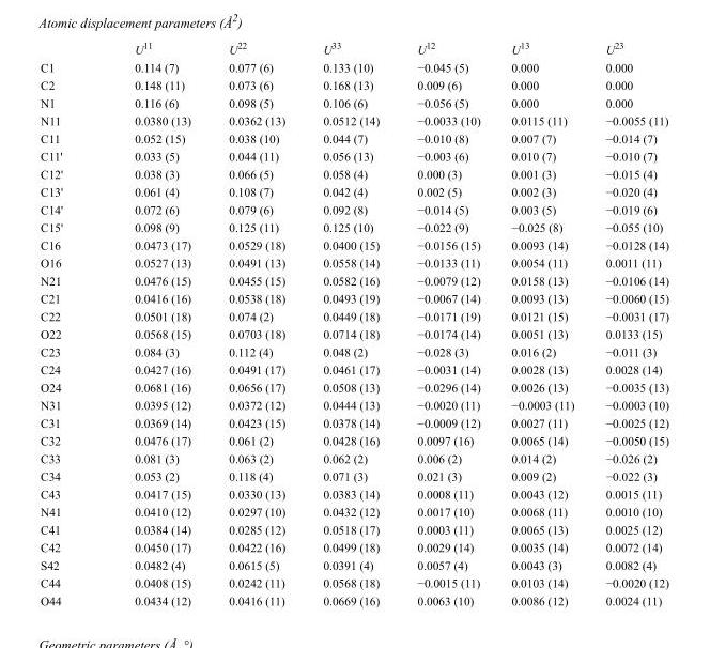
<table><thead><tr><td></td><td>U<sup>11</sup></td><td>U<sup>22</sup></td><td>U<sup>33</sup></td><td>U<sup>12</sup></td><td>U<sup>13</sup></td><td>U<sup>23</sup></td></tr></thead><tbody><tr><td>C1</td><td>0.114 (7)</td><td>0.077 (6)</td><td>0.133 (10)</td><td>−0.045 (5)</td><td>0.000</td><td>0.000</td></tr><tr><td>C2</td><td>0.148 (11)</td><td>0.073 (6)</td><td>0.168 (13)</td><td>0.009 (6)</td><td>0.000</td><td>0.000</td></tr><tr><td>N1</td><td>0.116 (6)</td><td>0.098 (5)</td><td>0.106 (6)</td><td>−0.056 (5)</td><td>0.000</td><td>0.000</td></tr><tr><td>N11</td><td>0.0380 (13)</td><td>0.0362 (13)</td><td>0.0512 (14)</td><td>−0.0033 (10)</td><td>0.0115 (11)</td><td>−0.0055 (11)</td></tr><tr><td>C11</td><td>0.052 (15)</td><td>0.038 (10)</td><td>0.044 (7)</td><td>−0.010 (8)</td><td>0.007 (7)</td><td>−0.014 (7)</td></tr><tr><td>C11&#x27;</td><td>0.033 (5)</td><td>0.044 (11)</td><td>0.056 (13)</td><td>−0.003 (6)</td><td>0.010 (7)</td><td>−0.010 (7)</td></tr><tr><td>C12&#x27;</td><td>0.038 (3)</td><td>0.066 (5)</td><td>0.058 (4)</td><td>0.000 (3)</td><td>0.001 (3)</td><td>−0.015 (4)</td></tr><tr><td>C13&#x27;</td><td>0.061 (4)</td><td>0.108 (7)</td><td>0.042 (4)</td><td>0.002 (5)</td><td>0.002 (3)</td><td>−0.020 (4)</td></tr><tr><td>C14&#x27;</td><td>0.072 (6)</td><td>0.079 (6)</td><td>0.092 (8)</td><td>−0.014 (5)</td><td>0.003 (5)</td><td>−0.019 (6)</td></tr><tr><td>C15&#x27;</td><td>0.098 (9)</td><td>0.125 (11)</td><td>0.125 (10)</td><td>−0.022 (9)</td><td>−0.025 (8)</td><td>−0.055 (10)</td></tr><tr><td>C16</td><td>0.0473 (17)</td><td>0.0529 (18)</td><td>0.0400 (15)</td><td>−0.0156 (15)</td><td>0.0093 (14)</td><td>−0.0128 (14)</td></tr><tr><td>O16</td><td>0.0527 (13)</td><td>0.0491 (13)</td><td>0.0558 (14)</td><td>−0.0133 (11)</td><td>0.0054 (11)</td><td>0.0011 (11)</td></tr><tr><td>N21</td><td>0.0476 (15)</td><td>0.0455 (15)</td><td>0.0582 (16)</td><td>−0.0079 (12)</td><td>0.0158 (13)</td><td>−0.0106 (14)</td></tr><tr><td>C21</td><td>0.0416 (16)</td><td>0.0538 (18)</td><td>0.0493 (19)</td><td>−0.0067 (14)</td><td>0.0093 (13)</td><td>−0.0060 (15)</td></tr><tr><td>C22</td><td>0.0501 (18)</td><td>0.074 (2)</td><td>0.0449 (18)</td><td>−0.0171 (19)</td><td>0.0121 (15)</td><td>−0.0031 (17)</td></tr><tr><td>O22</td><td>0.0568 (15)</td><td>0.0703 (18)</td><td>0.0714 (18)</td><td>−0.0174 (14)</td><td>0.0051 (13)</td><td>0.0133 (15)</td></tr><tr><td>C23</td><td>0.084 (3)</td><td>0.112 (4)</td><td>0.048 (2)</td><td>−0.028 (3)</td><td>0.016 (2)</td><td>−0.011 (3)</td></tr><tr><td>C24</td><td>0.0427 (16)</td><td>0.0491 (17)</td><td>0.0461 (17)</td><td>−0.0031 (14)</td><td>0.0028 (13)</td><td>0.0028 (14)</td></tr><tr><td>O24</td><td>0.0681 (16)</td><td>0.0656 (17)</td><td>0.0508 (13)</td><td>−0.0296 (14)</td><td>0.0026 (13)</td><td>−0.0035 (13)</td></tr><tr><td>N31</td><td>0.0395 (12)</td><td>0.0372 (12)</td><td>0.0444 (13)</td><td>−0.0020 (11)</td><td>−0.0003 (11)</td><td>−0.0003 (10)</td></tr><tr><td>C31</td><td>0.0369 (14)</td><td>0.0423 (15)</td><td>0.0378 (14)</td><td>−0.0009 (12)</td><td>0.0027 (11)</td><td>−0.0025 (12)</td></tr><tr><td>C32</td><td>0.0476 (17)</td><td>0.061 (2)</td><td>0.0428 (16)</td><td>0.0097 (16)</td><td>0.0065 (14)</td><td>−0.0050 (15)</td></tr><tr><td>C33</td><td>0.081 (3)</td><td>0.063 (2)</td><td>0.062 (2)</td><td>0.006 (2)</td><td>0.014 (2)</td><td>−0.026 (2)</td></tr><tr><td>C34</td><td>0.053 (2)</td><td>0.118 (4)</td><td>0.071 (3)</td><td>0.021 (3)</td><td>0.009 (2)</td><td>−0.022 (3)</td></tr><tr><td>C43</td><td>0.0417 (15)</td><td>0.0330 (13)</td><td>0.0383 (14)</td><td>0.0008 (11)</td><td>0.0043 (12)</td><td>0.0015 (11)</td></tr><tr><td>N41</td><td>0.0410 (12)</td><td>0.0297 (10)</td><td>0.0432 (12)</td><td>0.0017 (10)</td><td>0.0068 (11)</td><td>0.0010 (10)</td></tr><tr><td>C41</td><td>0.0384 (14)</td><td>0.0285 (12)</td><td>0.0518 (17)</td><td>0.0003 (11)</td><td>0.0065 (13)</td><td>0.0025 (12)</td></tr><tr><td>C42</td><td>0.0450 (17)</td><td>0.0422 (16)</td><td>0.0499 (18)</td><td>0.0029 (14)</td><td>0.0035 (14)</td><td>0.0072 (14)</td></tr><tr><td>S42</td><td>0.0482 (4)</td><td>0.0615 (5)</td><td>0.0391 (4)</td><td>0.0057 (4)</td><td>0.0043 (3)</td><td>0.0082 (4)</td></tr><tr><td>C44</td><td>0.0408 (15)</td><td>0.0242 (11)</td><td>0.0568 (18)</td><td>−0.0015 (11)</td><td>0.0103 (14)</td><td>−0.0020 (12)</td></tr><tr><td>O44</td><td>0.0434 (12)</td><td>0.0416 (11)</td><td>0.0669 (16)</td><td>0.0063 (10)</td><td>0.0086 (12)</td><td>0.0024 (11)</td></tr></tbody></table>